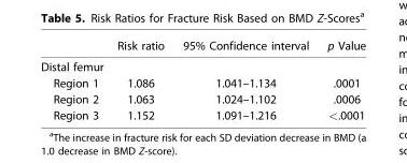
<table><thead><tr><td></td><td>Risk ratio</td><td>95% Confidence interval</td><td>p Value</td></tr></thead><tbody><tr><td colspan="4">Distal femur</td></tr><tr><td>Region 1</td><td>1.086</td><td>1.041–1.134</td><td>.0001</td></tr><tr><td>Region 2</td><td>1.063</td><td>1.024–1.102</td><td>.0006</td></tr><tr><td>Region 3</td><td>1.152</td><td>1.091–1.216</td><td>&lt;.0001</td></tr></tbody></table>